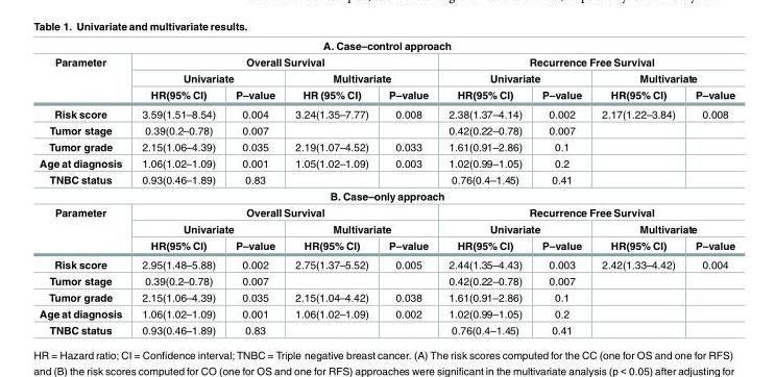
<table><tbody><tr><td colspan="9">A. Case–control approach</td></tr><tr><td rowspan="3">Parameter</td><td colspan="4">Overall Survival</td><td colspan="4">Recurrence Free Survival</td></tr><tr><td colspan="2">Univariate</td><td colspan="2">Multivariate</td><td colspan="2">Univariate</td><td colspan="2">Multivariate</td></tr><tr><td>HR(95% CI)</td><td>P–value</td><td>HR (95% CI)</td><td>P–value</td><td>HR(95% CI)</td><td>P–value</td><td>HR(95% CI)</td><td>P–value</td></tr><tr><td>Risk score</td><td>3.59(1.51–8.54)</td><td>0.004</td><td>3.24(1.35–7.77)</td><td>0.008</td><td>2.38(1.37–4.14)</td><td>0.002</td><td>2.17(1.22–3.84)</td><td>0.008</td></tr><tr><td>Tumor stage</td><td>0.39(0.2–0.78)</td><td>0.007</td><td></td><td></td><td>0.42(0.22–0.78)</td><td>0.007</td><td></td><td></td></tr><tr><td>Tumor grade</td><td>2.15(1.06–4.39)</td><td>0.035</td><td>2.19(1.07–4.52)</td><td>0.033</td><td>1.61(0.91–2.86)</td><td>0.1</td><td></td><td></td></tr><tr><td>Age at diagnosis</td><td>1.06(1.02–1.09)</td><td>0.001</td><td>1.05(1.02–1.09)</td><td>0.003</td><td>1.02(0.99–1.05)</td><td>0.2</td><td></td><td></td></tr><tr><td>TNBC status</td><td>0.93(0.46–1.89)</td><td>0.83</td><td></td><td></td><td>0.76(0.4–1.45)</td><td>0.41</td><td></td><td></td></tr><tr><td colspan="9">B. Case–only approach</td></tr><tr><td rowspan="3">Parameter</td><td colspan="4">Overall Survival</td><td colspan="4">Recurrence Free Survival</td></tr><tr><td colspan="2">Univariate</td><td colspan="2">Multivariate</td><td colspan="2">Univariate</td><td colspan="2">Multivariate</td></tr><tr><td>HR(95% CI)</td><td>P–value</td><td>HR(95% CI)</td><td>P–value</td><td>HR(95% CI)</td><td>P–value</td><td>HR(95% CI)</td><td>P–value</td></tr><tr><td>Risk score</td><td>2.95(1.48–5.88)</td><td>0.002</td><td>2.75(1.37–5.52)</td><td>0.005</td><td>2.44(1.35–4.43)</td><td>0.003</td><td>2.42(1.33–4.42)</td><td>0.004</td></tr><tr><td>Tumor stage</td><td>0.39(0.2–0.78)</td><td>0.007</td><td></td><td></td><td>0.42(0.22–0.78)</td><td>0.007</td><td></td><td></td></tr><tr><td>Tumor grade</td><td>2.15(1.06–4.39)</td><td>0.035</td><td>2.15(1.04–4.42)</td><td>0.038</td><td>1.61(0.91–2.86)</td><td>0.1</td><td></td><td></td></tr><tr><td>Age at diagnosis</td><td>1.06(1.02–1.09)</td><td>0.001</td><td>1.06(1.02–1.09)</td><td>0.002</td><td>1.02(0.99–1.05)</td><td>0.2</td><td></td><td></td></tr><tr><td>TNBC status</td><td>0.93(0.46–1.89)</td><td>0.83</td><td></td><td></td><td>0.76(0.4–1.45)</td><td>0.41</td><td></td><td></td></tr></tbody></table>